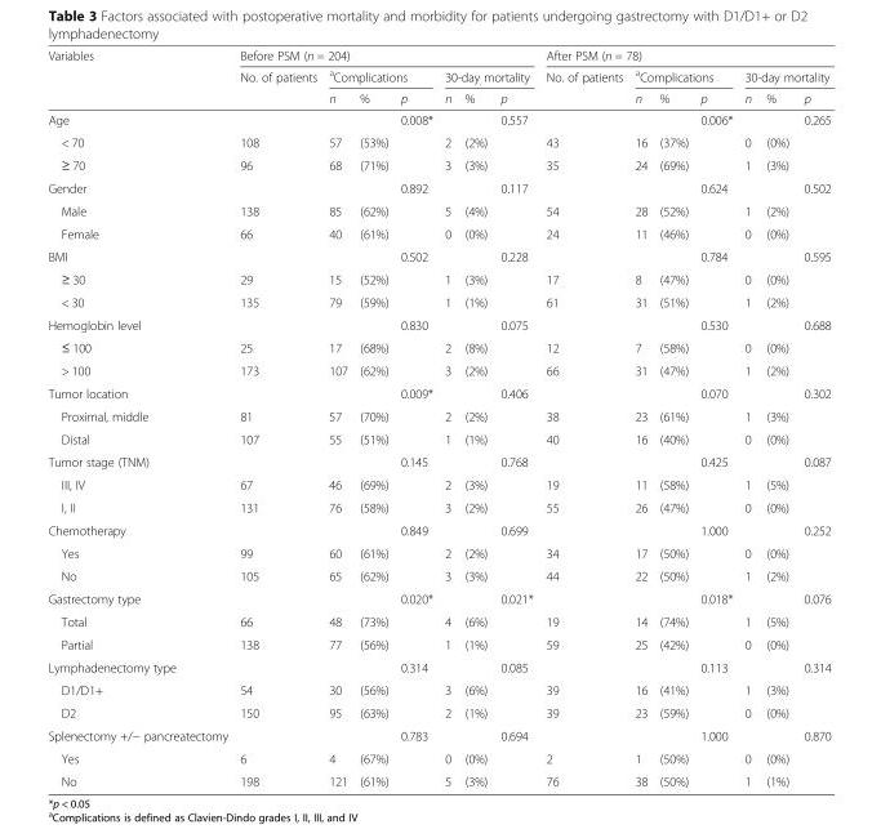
<table><thead><tr><td rowspan="3">Variables</td><td colspan="7">Before PSM (n = 204)</td><td colspan="7">After PSM (n = 78)</td></tr><tr><td rowspan="2">No. of patients</td><td colspan="3"><sup>a</sup>Complications</td><td colspan="3">30-day mortality</td><td rowspan="2">No. of patients</td><td colspan="3"><sup>a</sup>Complications</td><td colspan="3">30-day mortality</td></tr><tr><td>n</td><td>%</td><td>p</td><td>n</td><td>%</td><td>p</td><td>n</td><td>%</td><td>p</td><td>n</td><td>%</td><td>p</td></tr></thead><tbody><tr><td>Age</td><td></td><td></td><td></td><td>0.008*</td><td></td><td></td><td>0.557</td><td></td><td></td><td></td><td>0.006*</td><td></td><td></td><td>0.265</td></tr><tr><td>&lt; 70</td><td>108</td><td>57</td><td>(53%)</td><td></td><td>2</td><td>(2%)</td><td></td><td>43</td><td>16</td><td>(37%)</td><td></td><td>0</td><td>(0%)</td><td></td></tr><tr><td>≥ 70</td><td>96</td><td>68</td><td>(71%)</td><td></td><td>3</td><td>(3%)</td><td></td><td>35</td><td>24</td><td>(69%)</td><td></td><td>1</td><td>(3%)</td><td></td></tr><tr><td>Gender</td><td></td><td></td><td></td><td>0.892</td><td></td><td></td><td>0.117</td><td></td><td></td><td></td><td>0.624</td><td></td><td></td><td>0.502</td></tr><tr><td>Male</td><td>138</td><td>85</td><td>(62%)</td><td></td><td>5</td><td>(4%)</td><td></td><td>54</td><td>28</td><td>(52%)</td><td></td><td>1</td><td>(2%)</td><td></td></tr><tr><td>Female</td><td>66</td><td>40</td><td>(61%)</td><td></td><td>0</td><td>(0%)</td><td></td><td>24</td><td>11</td><td>(46%)</td><td></td><td>0</td><td>(0%)</td><td></td></tr><tr><td>BMI</td><td></td><td></td><td></td><td>0.502</td><td></td><td></td><td>0.228</td><td></td><td></td><td></td><td>0.784</td><td></td><td></td><td>0.595</td></tr><tr><td>≥ 30</td><td>29</td><td>15</td><td>(52%)</td><td></td><td>1</td><td>(3%)</td><td></td><td>17</td><td>8</td><td>(47%)</td><td></td><td>0</td><td>(0%)</td><td></td></tr><tr><td>&lt; 30</td><td>135</td><td>79</td><td>(59%)</td><td></td><td>1</td><td>(1%)</td><td></td><td>61</td><td>31</td><td>(51%)</td><td></td><td>1</td><td>(2%)</td><td></td></tr><tr><td>Hemoglobin level</td><td></td><td></td><td></td><td>0.830</td><td></td><td></td><td>0.075</td><td></td><td></td><td></td><td>0.530</td><td></td><td></td><td>0.688</td></tr><tr><td>≤ 100</td><td>25</td><td>17</td><td>(68%)</td><td></td><td>2</td><td>(8%)</td><td></td><td>12</td><td>7</td><td>(58%)</td><td></td><td>0</td><td>(0%)</td><td></td></tr><tr><td>&gt; 100</td><td>173</td><td>107</td><td>(62%)</td><td></td><td>3</td><td>(2%)</td><td></td><td>66</td><td>31</td><td>(47%)</td><td></td><td>1</td><td>(2%)</td><td></td></tr><tr><td>Tumor location</td><td></td><td></td><td></td><td>0.009*</td><td></td><td></td><td>0.406</td><td></td><td></td><td></td><td>0.070</td><td></td><td></td><td>0.302</td></tr><tr><td>Proximal, middle</td><td>81</td><td>57</td><td>(70%)</td><td></td><td>2</td><td>(2%)</td><td></td><td>38</td><td>23</td><td>(61%)</td><td></td><td>1</td><td>(3%)</td><td></td></tr><tr><td>Distal</td><td>107</td><td>55</td><td>(51%)</td><td></td><td>1</td><td>(1%)</td><td></td><td>40</td><td>16</td><td>(40%)</td><td></td><td>0</td><td>(0%)</td><td></td></tr><tr><td>Tumor stage (TNM)</td><td></td><td></td><td></td><td>0.145</td><td></td><td></td><td>0.768</td><td></td><td></td><td></td><td>0.425</td><td></td><td></td><td>0.087</td></tr><tr><td>III, IV</td><td>67</td><td>46</td><td>(69%)</td><td></td><td>2</td><td>(3%)</td><td></td><td>19</td><td>11</td><td>(58%)</td><td></td><td>1</td><td>(5%)</td><td></td></tr><tr><td>I, II</td><td>131</td><td>76</td><td>(58%)</td><td></td><td>3</td><td>(2%)</td><td></td><td>55</td><td>26</td><td>(47%)</td><td></td><td>0</td><td>(0%)</td><td></td></tr><tr><td>Chemotherapy</td><td></td><td></td><td></td><td>0.849</td><td></td><td></td><td>0.699</td><td></td><td></td><td></td><td>1.000</td><td></td><td></td><td>0.252</td></tr><tr><td>Yes</td><td>99</td><td>60</td><td>(61%)</td><td></td><td>2</td><td>(2%)</td><td></td><td>34</td><td>17</td><td>(50%)</td><td></td><td>0</td><td>(0%)</td><td></td></tr><tr><td>No</td><td>105</td><td>65</td><td>(62%)</td><td></td><td>3</td><td>(3%)</td><td></td><td>44</td><td>22</td><td>(50%)</td><td></td><td>1</td><td>(2%)</td><td></td></tr><tr><td>Gastrectomy type</td><td></td><td></td><td></td><td>0.020*</td><td></td><td></td><td>0.021*</td><td></td><td></td><td></td><td>0.018*</td><td></td><td></td><td>0.076</td></tr><tr><td>Total</td><td>66</td><td>48</td><td>(73%)</td><td></td><td>4</td><td>(6%)</td><td></td><td>19</td><td>14</td><td>(74%)</td><td></td><td>1</td><td>(5%)</td><td></td></tr><tr><td>Partial</td><td>138</td><td>77</td><td>(56%)</td><td></td><td>1</td><td>(1%)</td><td></td><td>59</td><td>25</td><td>(42%)</td><td></td><td>0</td><td>(0%)</td><td></td></tr><tr><td>Lymphadenectomy type</td><td></td><td></td><td></td><td>0.314</td><td></td><td></td><td>0.085</td><td></td><td></td><td></td><td>0.113</td><td></td><td></td><td>0.314</td></tr><tr><td>D1/D1+</td><td>54</td><td>30</td><td>(56%)</td><td></td><td>3</td><td>(6%)</td><td></td><td>39</td><td>16</td><td>(41%)</td><td></td><td>1</td><td>(3%)</td><td></td></tr><tr><td>D2</td><td>150</td><td>95</td><td>(63%)</td><td></td><td>2</td><td>(1%)</td><td></td><td>39</td><td>23</td><td>(59%)</td><td></td><td>0</td><td>(0%)</td><td></td></tr><tr><td>Splenectomy +/− pancreatectomy</td><td></td><td></td><td></td><td>0.783</td><td></td><td></td><td>0.694</td><td></td><td></td><td></td><td>1.000</td><td></td><td></td><td>0.870</td></tr><tr><td>Yes</td><td>6</td><td>4</td><td>(67%)</td><td></td><td>0</td><td>(0%)</td><td></td><td>2</td><td>1</td><td>(50%)</td><td></td><td>0</td><td>(0%)</td><td></td></tr><tr><td>No</td><td>198</td><td>121</td><td>(61%)</td><td></td><td>5</td><td>(3%)</td><td></td><td>76</td><td>38</td><td>(50%)</td><td></td><td>1</td><td>(1%)</td><td></td></tr></tbody></table>